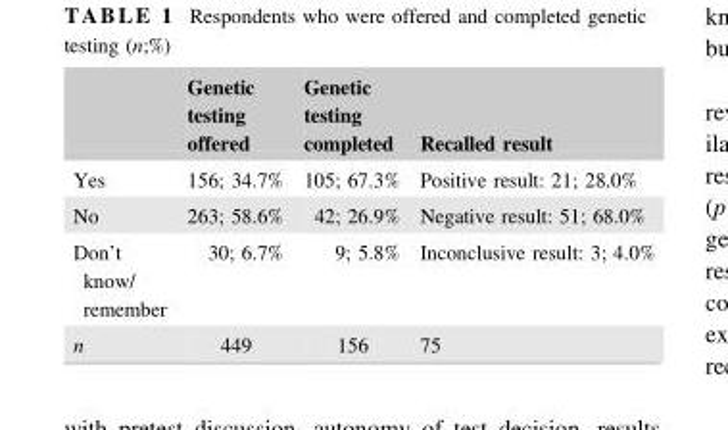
<table><thead><tr><td></td><td>Genetic testing offered</td><td>Genetic testing completed</td><td>Recalled result</td></tr></thead><tbody><tr><td>Yes</td><td>156; 34.7%</td><td>105; 67.3%</td><td>Positive result: 21; 28.0%</td></tr><tr><td>No</td><td>263; 58.6%</td><td>42; 26.9%</td><td>Negative result: 51; 68.0%</td></tr><tr><td>Don’t know/ remember</td><td>30; 6.7%</td><td>9; 5.8%</td><td>Inconclusive result: 3; 4.0%</td></tr><tr><td>n</td><td>449</td><td>156</td><td>75</td></tr></tbody></table>